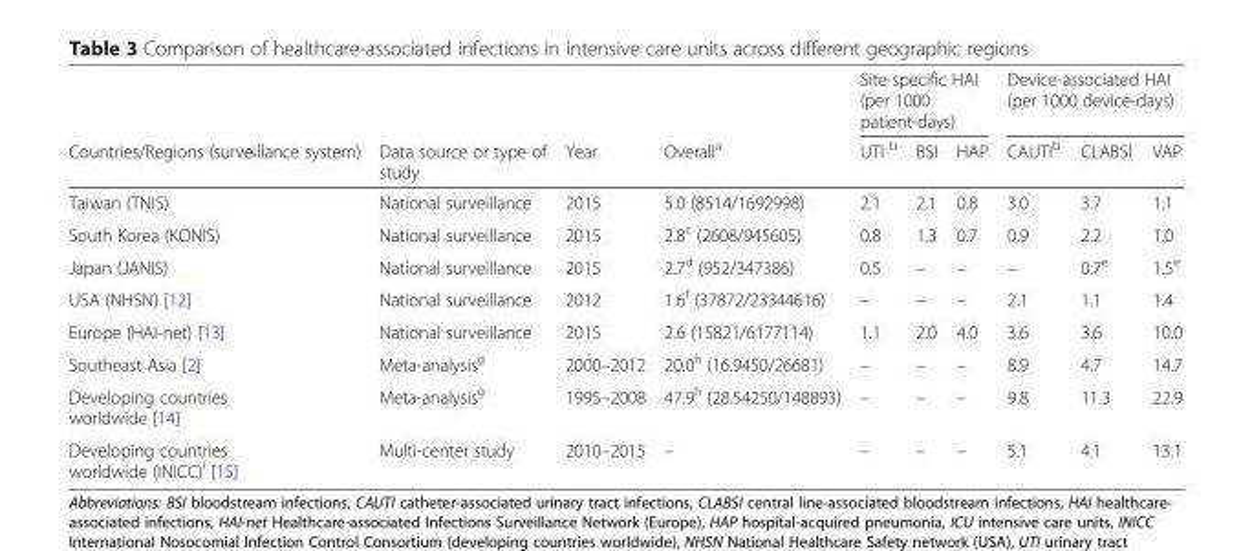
<table><thead><tr><td rowspan="2">Countries/Regions (surveillance system)</td><td rowspan="2">Data source or type of study</td><td rowspan="2">Year</td><td rowspan="2">Overall<sup>a</sup></td><td colspan="3">Site-specific HAI (per 1000 patient-days)</td><td colspan="3">Device-associated HAI (per 1000 device-days)</td></tr><tr><td>UTI <sup>b</sup></td><td>BSI</td><td>HAP</td><td>CAUTI<sup>b</sup></td><td>CLABSI</td><td>VAP</td></tr></thead><tbody><tr><td>Taiwan (TNIS)</td><td>National surveillance</td><td>2015</td><td>5.0 (8514/1692998)</td><td>2.1</td><td>2.1</td><td>0.8</td><td>3.0</td><td>3.7</td><td>1.1</td></tr><tr><td>South Korea (KONIS)</td><td>National surveillance</td><td>2015</td><td>2.8<sup>c</sup> (2608/945605)</td><td>0.8</td><td>1.3</td><td>0.7</td><td>0.9</td><td>2.2</td><td>1.0</td></tr><tr><td>Japan (JANIS)</td><td>National surveillance</td><td>2015</td><td>2.7<sup>d</sup> (952/347386)</td><td>0.5</td><td>–</td><td>–</td><td>–</td><td>0.7<sup>e</sup></td><td>1.5<sup>e</sup></td></tr><tr><td>USA (NHSN) [12]</td><td>National surveillance</td><td>2012</td><td>1.6<sup>f</sup> (37872/23344616)</td><td>–</td><td>–</td><td>–</td><td>2.1</td><td>1.1</td><td>1.4</td></tr><tr><td>Europe (HAI-net) [13]</td><td>National surveillance</td><td>2015</td><td>2.6 (15821/6177114)</td><td>1.1</td><td>2.0</td><td>4.0</td><td>3.6</td><td>3.6</td><td>10.0</td></tr><tr><td>Southeast Asia [2]</td><td>Meta-analysis<sup>g</sup></td><td>2000–2012</td><td>20.0<sup>h</sup> (16.9450/26681)</td><td>–</td><td>–</td><td>–</td><td>8.9</td><td>4.7</td><td>14.7</td></tr><tr><td>Developing countries worldwide [14]</td><td>Meta-analysis<sup>g</sup></td><td>1995–2008</td><td>47.9<sup>h</sup> (28.54250/148893)</td><td>–</td><td>–</td><td>–</td><td>9.8</td><td>11.3</td><td>22.9</td></tr><tr><td>Developing countries worldwide (INICC)<sup>i</sup> [15]</td><td>Multi-center study</td><td>2010–2015</td><td>–</td><td>–</td><td>–</td><td>–</td><td>5.1</td><td>4.1</td><td>13.1</td></tr></tbody></table>